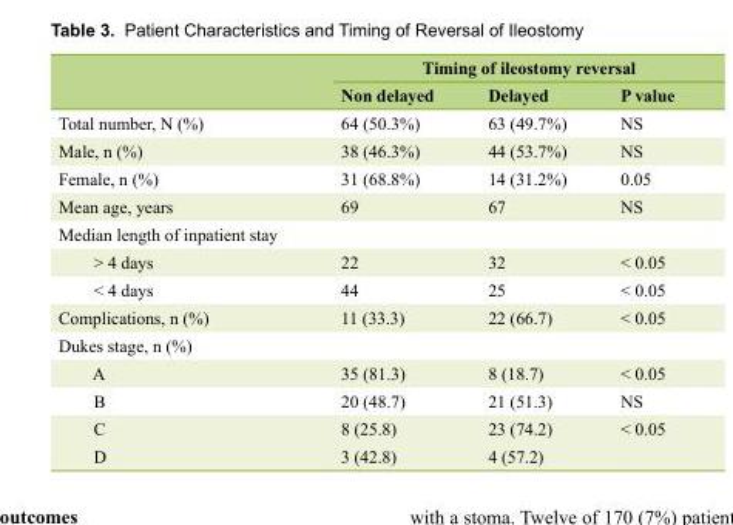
<table><thead><tr><td rowspan="2"></td><td colspan="3">Timing of ileostomy reversal</td></tr><tr><td>Non delayed</td><td>Delayed</td><td>P value</td></tr></thead><tbody><tr><td>Total number, N (%)</td><td>64 (50.3%)</td><td>63 (49.7%)</td><td>NS</td></tr><tr><td>Male, n (%)</td><td>38 (46.3%)</td><td>44 (53.7%)</td><td>NS</td></tr><tr><td>Female, n (%)</td><td>31 (68.8%)</td><td>14 (31.2%)</td><td>0.05</td></tr><tr><td>Mean age, years</td><td>69</td><td>67</td><td>NS</td></tr><tr><td colspan="4">Median length of inpatient stay</td></tr><tr><td>&gt; 4 days</td><td>22</td><td>32</td><td>&lt; 0.05</td></tr><tr><td>&lt; 4 days</td><td>44</td><td>25</td><td>&lt; 0.05</td></tr><tr><td>Complications, n (%)</td><td>11 (33.3)</td><td>22 (66.7)</td><td>&lt; 0.05</td></tr><tr><td colspan="4">Dukes stage, n (%)</td></tr><tr><td>A</td><td>35 (81.3)</td><td>8 (18.7)</td><td>&lt; 0.05</td></tr><tr><td>B</td><td>20 (48.7)</td><td>21 (51.3)</td><td>NS</td></tr><tr><td>C</td><td>8 (25.8)</td><td>23 (74.2)</td><td rowspan="2">&lt; 0.05</td></tr><tr><td>D</td><td>3 (42.8)</td><td>4 (57.2)</td></tr></tbody></table>